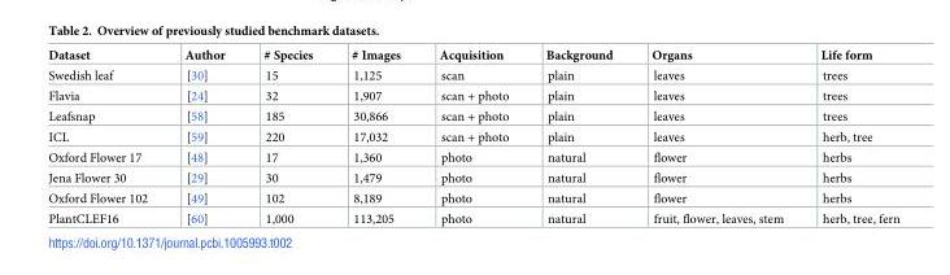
<table><thead><tr><td>Dataset</td><td>Author</td><td># Species</td><td># Images</td><td>Acquisition</td><td>Background</td><td>Organs</td><td>Life form</td></tr></thead><tbody><tr><td>Swedish leaf</td><td>[30]</td><td>15</td><td>1,125</td><td>scan</td><td>plain</td><td>leaves</td><td>trees</td></tr><tr><td>Flavia</td><td>[24]</td><td>32</td><td>1,907</td><td>scan + photo</td><td>plain</td><td>leaves</td><td>trees</td></tr><tr><td>Leafsnap</td><td>[58]</td><td>185</td><td>30,866</td><td>scan + photo</td><td>plain</td><td>leaves</td><td>trees</td></tr><tr><td>ICL</td><td>[59]</td><td>220</td><td>17,032</td><td>scan + photo</td><td>plain</td><td>leaves</td><td>herb, tree</td></tr><tr><td>Oxford Flower 17</td><td>[48]</td><td>17</td><td>1,360</td><td>photo</td><td>natural</td><td>flower</td><td>herbs</td></tr><tr><td>Jena Flower 30</td><td>[29]</td><td>30</td><td>1,479</td><td>photo</td><td>natural</td><td>flower</td><td>herbs</td></tr><tr><td>Oxford Flower 102</td><td>[49]</td><td>102</td><td>8,189</td><td>photo</td><td>natural</td><td>flower</td><td>herbs</td></tr><tr><td>PlantCLEF16</td><td>[60]</td><td>1,000</td><td>113,205</td><td>photo</td><td>natural</td><td>fruit, flower, leaves, stem</td><td>herb, tree, fern</td></tr></tbody></table>